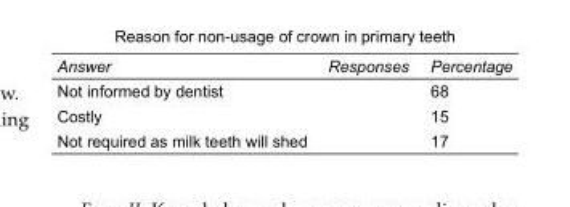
<table><tbody><tr><td>Answer</td><td>Responses</td><td>Percentage</td></tr><tr><td>Not informed by dentist</td><td></td><td>68</td></tr><tr><td>Costly</td><td></td><td>15</td></tr><tr><td>Not required as milk teeth will shed</td><td></td><td>17</td></tr></tbody></table>